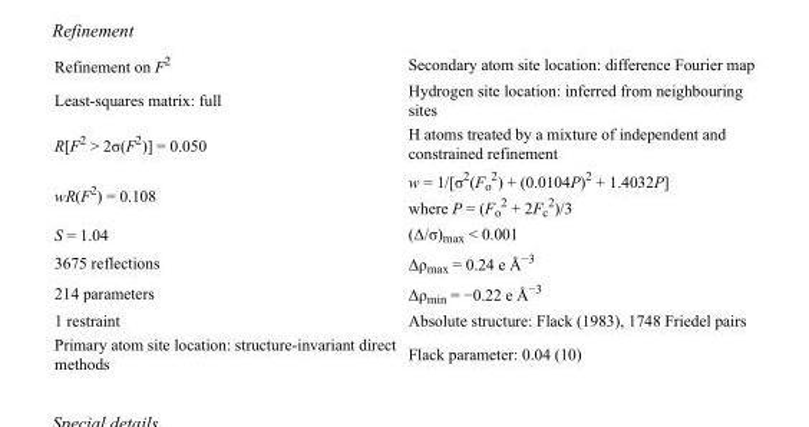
<table><tbody><tr><td>Refinement on F<sup>2</sup></td><td>Secondary atom site location: difference Fourier map</td></tr><tr><td>Least-squares matrix: full</td><td>Hydrogen site location: inferred from neighbouring sites</td></tr><tr><td>R[F<sup>2</sup> &gt; 2σ(F<sup>2</sup>)] = 0.050</td><td>H atoms treated by a mixture of independent and constrained refinement</td></tr><tr><td>wR(F<sup>2</sup>) = 0.108</td><td>w = 1/[σ<sup>2</sup>(F<sub>o</sub> <sup>2</sup>) + (0.0104P)<sup>2</sup> + 1.4032P] where P = (F<sub>o</sub> <sup>2</sup> + 2F<sub>c</sub> <sup>2</sup>)/3</td></tr><tr><td>S = 1.04</td><td>(Δ/σ)<sub>max</sub> &lt; 0.001</td></tr><tr><td>3675 reflections</td><td>Δρ<sub>max</sub> = 0.24 e Å<sup>−3</sup></td></tr><tr><td>214 parameters</td><td>Δρ<sub>min</sub> = −0.22 e Å<sup>−3</sup></td></tr><tr><td>1 restraint</td><td>Absolute structure: Flack (1983), 1748 Friedel pairs</td></tr><tr><td>Primary atom site location: structure-invariant direct methods</td><td>Flack parameter: 0.04 (10)</td></tr></tbody></table>